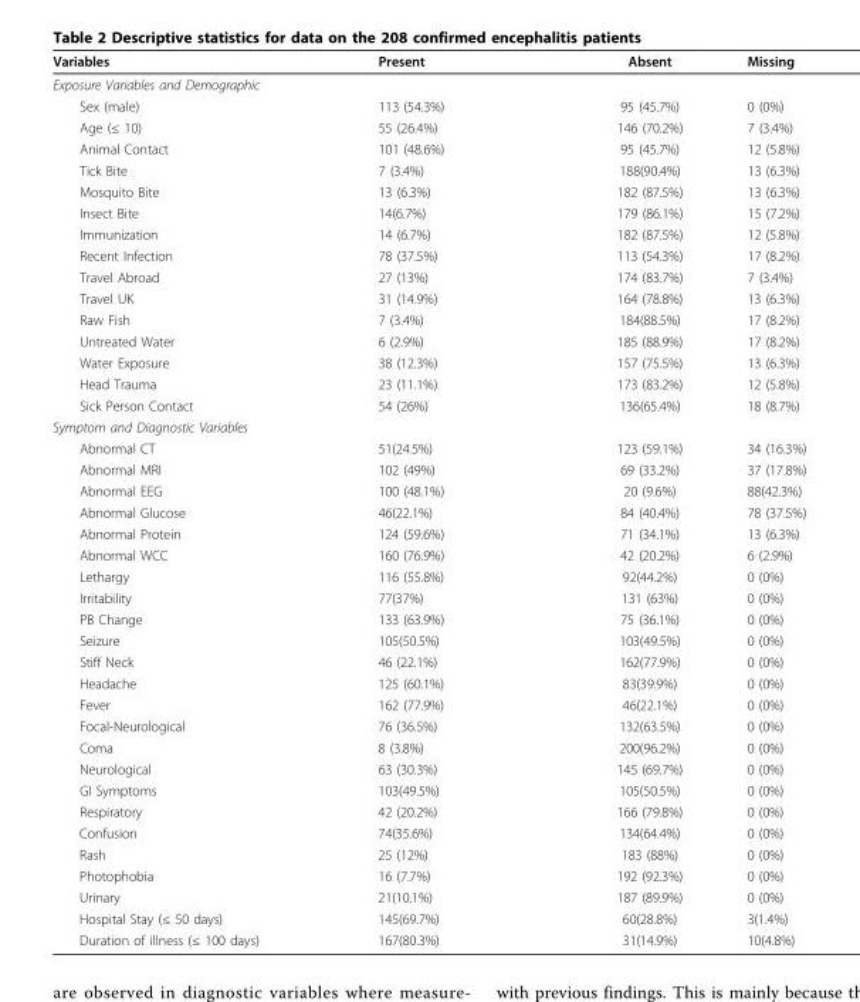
<table><thead><tr><td>Variables</td><td>Present</td><td>Absent</td><td>Missing</td></tr></thead><tbody><tr><td colspan="4">Exposure Variables and Demographic</td></tr><tr><td>Sex (male)</td><td>113 (54.3%)</td><td>95 (45.7%)</td><td>0 (0%)</td></tr><tr><td>Age (≤ 10)</td><td>55 (26.4%)</td><td>146 (70.2%)</td><td>7 (3.4%)</td></tr><tr><td>Animal Contact</td><td>101 (48.6%)</td><td>95 (45.7%)</td><td>12 (5.8%)</td></tr><tr><td>Tick Bite</td><td>7 (3.4%)</td><td>188(90.4%)</td><td>13 (6.3%)</td></tr><tr><td>Mosquito Bite</td><td>13 (6.3%)</td><td>182 (87.5%)</td><td>13 (6.3%)</td></tr><tr><td>Insect Bite</td><td>14(6.7%)</td><td>179 (86.1%)</td><td>15 (7.2%)</td></tr><tr><td>Immunization</td><td>14 (6.7%)</td><td>182 (87.5%)</td><td>12 (5.8%)</td></tr><tr><td>Recent Infection</td><td>78 (37.5%)</td><td>113 (54.3%)</td><td>17 (8.2%)</td></tr><tr><td>Travel Abroad</td><td>27 (13%)</td><td>174 (83.7%)</td><td>7 (3.4%)</td></tr><tr><td>Travel UK</td><td>31 (14.9%)</td><td>164 (78.8%)</td><td>13 (6.3%)</td></tr><tr><td>Raw Fish</td><td>7 (3.4%)</td><td>184(88.5%)</td><td>17 (8.2%)</td></tr><tr><td>Untreated Water</td><td>6 (2.9%)</td><td>185 (88.9%)</td><td>17 (8.2%)</td></tr><tr><td>Water Exposure</td><td>38 (12.3%)</td><td>157 (75.5%)</td><td>13 (6.3%)</td></tr><tr><td>Head Trauma</td><td>23 (11.1%)</td><td>173 (83.2%)</td><td>12 (5.8%)</td></tr><tr><td>Sick Person Contact</td><td>54 (26%)</td><td>136(65.4%)</td><td>18 (8.7%)</td></tr><tr><td colspan="4">Symptom and Diagnostic Variables</td></tr><tr><td>Abnormal CT</td><td>51(24.5%)</td><td>123 (59.1%)</td><td>34 (16.3%)</td></tr><tr><td>Abnormal MRI</td><td>102 (49%)</td><td>69 (33.2%)</td><td>37 (17.8%)</td></tr><tr><td>Abnormal EEG</td><td>100 (48.1%)</td><td>20 (9.6%)</td><td>88(42.3%)</td></tr><tr><td>Abnormal Glucose</td><td>46(22.1%)</td><td>84 (40.4%)</td><td>78 (37.5%)</td></tr><tr><td>Abnormal Protein</td><td>124 (59.6%)</td><td>71 (34.1%)</td><td>13 (6.3%)</td></tr><tr><td>Abnormal WCC</td><td>160 (76.9%)</td><td>42 (20.2%)</td><td>6 (2.9%)</td></tr><tr><td>Lethargy</td><td>116 (55.8%)</td><td>92(44.2%)</td><td>0 (0%)</td></tr><tr><td>Irritability</td><td>77(37%)</td><td>131 (63%)</td><td>0 (0%)</td></tr><tr><td>PB Change</td><td>133 (63.9%)</td><td>75 (36.1%)</td><td>0 (0%)</td></tr><tr><td>Seizure</td><td>105(50.5%)</td><td>103(49.5%)</td><td>0 (0%)</td></tr><tr><td>Stiff Neck</td><td>46 (22.1%)</td><td>162(77.9%)</td><td>0 (0%)</td></tr><tr><td>Headache</td><td>125 (60.1%)</td><td>83(39.9%)</td><td>0 (0%)</td></tr><tr><td>Fever</td><td>162 (77.9%)</td><td>46(22.1%)</td><td>0 (0%)</td></tr><tr><td>Focal-Neurological</td><td>76 (36.5%)</td><td>132(63.5%)</td><td>0 (0%)</td></tr><tr><td>Coma</td><td>8 (3.8%)</td><td>200(96.2%)</td><td>0 (0%)</td></tr><tr><td>Neurological</td><td>63 (30.3%)</td><td>145 (69.7%)</td><td>0 (0%)</td></tr><tr><td>GI Symptoms</td><td>103(49.5%)</td><td>105(50.5%)</td><td>0 (0%)</td></tr><tr><td>Respiratory</td><td>42 (20.2%)</td><td>166 (79.8%)</td><td>0 (0%)</td></tr><tr><td>Confusion</td><td>74(35.6%)</td><td>134(64.4%)</td><td>0 (0%)</td></tr><tr><td>Rash</td><td>25 (12%)</td><td>183 (88%)</td><td>0 (0%)</td></tr><tr><td>Photophobia</td><td>16 (7.7%)</td><td>192 (92.3%)</td><td>0 (0%)</td></tr><tr><td>Urinary</td><td>21(10.1%)</td><td>187 (89.9%)</td><td>0 (0%)</td></tr><tr><td>Hospital Stay (≤ 50 days)</td><td>145(69.7%)</td><td>60(28.8%)</td><td>3(1.4%)</td></tr><tr><td>Duration of illness (≤ 100 days)</td><td>167(80.3%)</td><td>31(14.9%)</td><td>10(4.8%)</td></tr></tbody></table>